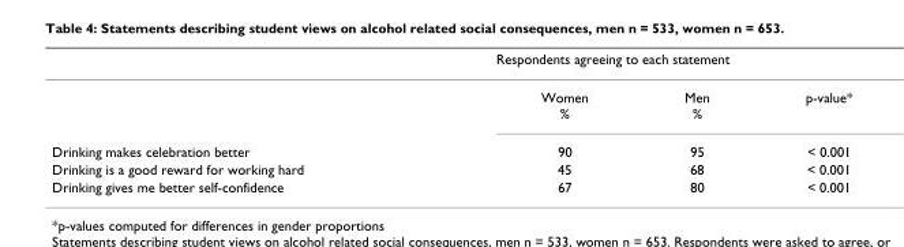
<table><thead><tr><td rowspan="2"></td><td colspan="3">Respondents agreeing to each statement</td></tr><tr><td>Women %</td><td>Men %</td><td>p-value*</td></tr></thead><tbody><tr><td>Drinking makes celebration better</td><td>90</td><td>95</td><td>&lt; 0.001</td></tr><tr><td>Drinking is a good reward for working hard</td><td>45</td><td>68</td><td>&lt; 0.001</td></tr><tr><td>Drinking gives me better self-confidence</td><td>67</td><td>80</td><td>&lt; 0.001</td></tr></tbody></table>